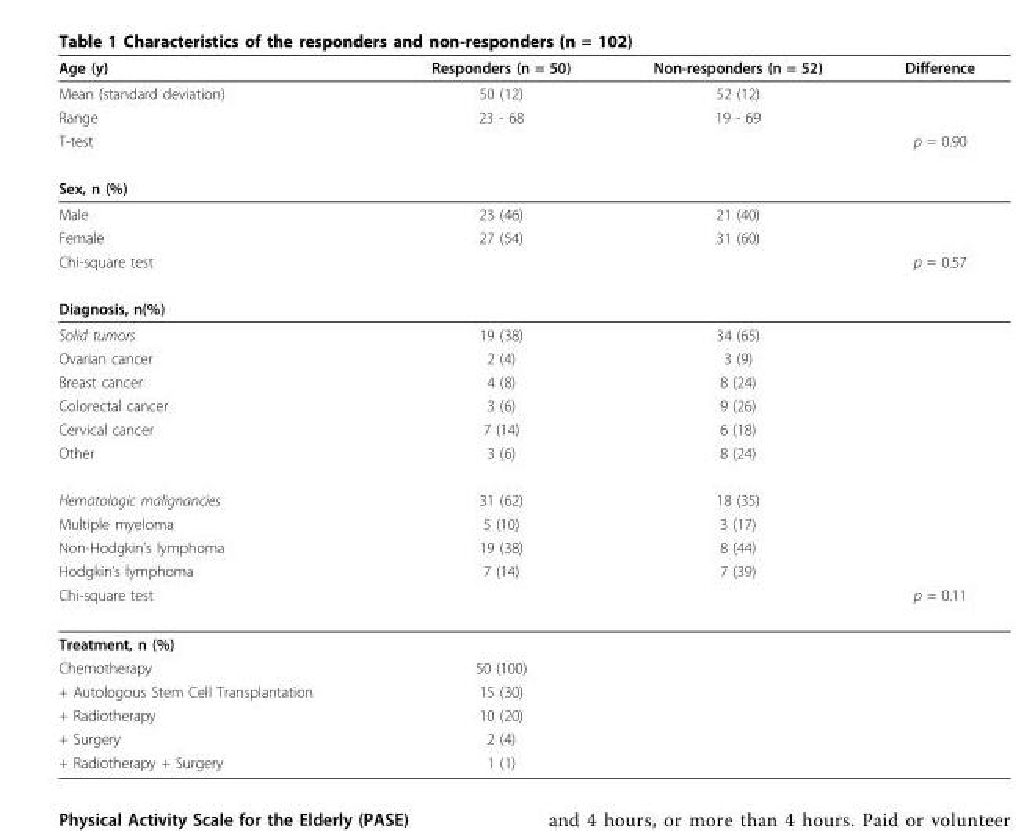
<table><thead><tr><td>Age (y)</td><td>Responders (n = 50)</td><td>Non-responders (n = 52)</td><td>Difference</td></tr></thead><tbody><tr><td>Mean (standard deviation)</td><td>50 (12)</td><td>52 (12)</td><td></td></tr><tr><td>Range</td><td>23 - 68</td><td>19 - 69</td><td></td></tr><tr><td>T-test</td><td></td><td></td><td>p = 0.90</td></tr><tr><td colspan="4">Sex, n (%)</td></tr><tr><td>Male</td><td>23 (46)</td><td>21 (40)</td><td></td></tr><tr><td>Female</td><td>27 (54)</td><td>31 (60)</td><td></td></tr><tr><td>Chi-square test</td><td></td><td></td><td>p = 0.57</td></tr><tr><td colspan="4">Diagnosis, n(%)</td></tr><tr><td>Solid tumors</td><td>19 (38)</td><td>34 (65)</td><td></td></tr><tr><td>Ovarian cancer</td><td>2 (4)</td><td>3 (9)</td><td></td></tr><tr><td>Breast cancer</td><td>4 (8)</td><td>8 (24)</td><td></td></tr><tr><td>Colorectal cancer</td><td>3 (6)</td><td>9 (26)</td><td></td></tr><tr><td>Cervical cancer</td><td>7 (14)</td><td>6 (18)</td><td></td></tr><tr><td>Other</td><td>3 (6)</td><td>8 (24)</td><td></td></tr><tr><td>Hematologic malignancies</td><td>31 (62)</td><td>18 (35)</td><td></td></tr><tr><td>Multiple myeloma</td><td>5 (10)</td><td>3 (17)</td><td></td></tr><tr><td>Non-Hodgkin’s lymphoma</td><td>19 (38)</td><td>8 (44)</td><td></td></tr><tr><td>Hodgkin’s lymphoma</td><td>7 (14)</td><td>7 (39)</td><td></td></tr><tr><td>Chi-square test</td><td></td><td></td><td>p = 0.11</td></tr><tr><td colspan="4">Treatment, n (%)</td></tr><tr><td>Chemotherapy</td><td>50 (100)</td><td></td><td></td></tr><tr><td>+ Autologous Stem Cell Transplantation</td><td>15 (30)</td><td></td><td></td></tr><tr><td>+ Radiotherapy</td><td>10 (20)</td><td></td><td></td></tr><tr><td>+ Surgery</td><td>2 (4)</td><td></td><td></td></tr><tr><td>+ Radiotherapy + Surgery</td><td>1 (1)</td><td></td><td></td></tr></tbody></table>